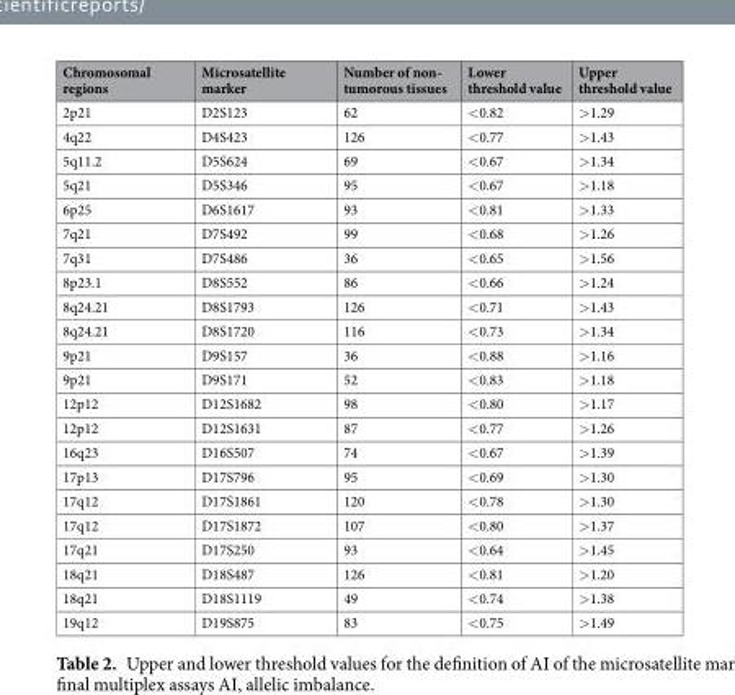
<table><thead><tr><td>Chromosomal regions</td><td>Microsatellite marker</td><td>Number of non- tumorous tissues</td><td>Lower threshold value</td><td>Upper threshold value</td></tr></thead><tbody><tr><td>2p21</td><td>D2S123</td><td>62</td><td>&lt;0.82</td><td>&gt;1.29</td></tr><tr><td>4q22</td><td>D4S423</td><td>126</td><td>&lt;0.77</td><td>&gt;1.43</td></tr><tr><td>5q11.2</td><td>D5S624</td><td>69</td><td>&lt;0.67</td><td>&gt;1.34</td></tr><tr><td>5q21</td><td>D5S346</td><td>95</td><td>&lt;0.67</td><td>&gt;1.18</td></tr><tr><td>6p25</td><td>D6S1617</td><td>93</td><td>&lt;0.81</td><td>&gt;1.33</td></tr><tr><td>7q21</td><td>D7S492</td><td>99</td><td>&lt;0.68</td><td>&gt;1.26</td></tr><tr><td>7q31</td><td>D7S486</td><td>36</td><td>&lt;0.65</td><td>&gt;1.56</td></tr><tr><td>8p23.1</td><td>D8S552</td><td>86</td><td>&lt;0.66</td><td>&gt;1.24</td></tr><tr><td>8q24.21</td><td>D8S1793</td><td>126</td><td>&lt;0.71</td><td>&gt;1.43</td></tr><tr><td>8q24.21</td><td>D8S1720</td><td>116</td><td>&lt;0.73</td><td>&gt;1.34</td></tr><tr><td>9p21</td><td>D9S157</td><td>36</td><td>&lt;0.88</td><td>&gt;1.16</td></tr><tr><td>9p21</td><td>D9S171</td><td>52</td><td>&lt;0.83</td><td>&gt;1.18</td></tr><tr><td>12p12</td><td>D12S1682</td><td>98</td><td>&lt;0.80</td><td>&gt;1.17</td></tr><tr><td>12p12</td><td>D12S1631</td><td>87</td><td>&lt;0.77</td><td>&gt;1.26</td></tr><tr><td>16q23</td><td>D16S507</td><td>74</td><td>&lt;0.67</td><td>&gt;1.39</td></tr><tr><td>17p13</td><td>D17S796</td><td>95</td><td>&lt;0.69</td><td>&gt;1.30</td></tr><tr><td>17q12</td><td>D17S1861</td><td>120</td><td>&lt;0.78</td><td>&gt;1.30</td></tr><tr><td>17q12</td><td>D17S1872</td><td>107</td><td>&lt;0.80</td><td>&gt;1.37</td></tr><tr><td>17q21</td><td>D17S250</td><td>93</td><td>&lt;0.64</td><td>&gt;1.45</td></tr><tr><td>18q21</td><td>D18S487</td><td>126</td><td>&lt;0.81</td><td>&gt;1.20</td></tr><tr><td>18q21</td><td>D18S1119</td><td>49</td><td>&lt;0.74</td><td>&gt;1.38</td></tr><tr><td>19q12</td><td>D19S875</td><td>83</td><td>&lt;0.75</td><td>&gt;1.49</td></tr></tbody></table>